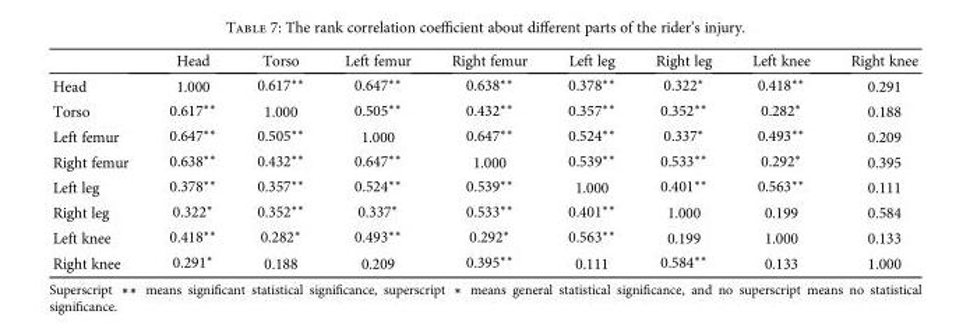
<table><thead><tr><td></td><td>Head</td><td>Torso</td><td>Left femur</td><td>Right femur</td><td>Left leg</td><td>Right leg</td><td>Left knee</td><td>Right knee</td></tr></thead><tbody><tr><td>Head</td><td>1.000</td><td>0.617∗∗</td><td>0.647∗∗</td><td>0.638∗∗</td><td>0.378∗∗</td><td>0.322∗</td><td>0.418∗∗</td><td>0.291</td></tr><tr><td>Torso</td><td>0.617∗∗</td><td>1.000</td><td>0.505∗∗</td><td>0.432∗∗</td><td>0.357∗∗</td><td>0.352∗∗</td><td>0.282∗</td><td>0.188</td></tr><tr><td>Left femur</td><td>0.647∗∗</td><td>0.505∗∗</td><td>1.000</td><td>0.647∗∗</td><td>0.524∗∗</td><td>0.337∗</td><td>0.493∗∗</td><td>0.209</td></tr><tr><td>Right femur</td><td>0.638∗∗</td><td>0.432∗∗</td><td>0.647∗∗</td><td>1.000</td><td>0.539∗∗</td><td>0.533∗∗</td><td>0.292∗</td><td>0.395</td></tr><tr><td>Left leg</td><td>0.378∗∗</td><td>0.357∗∗</td><td>0.524∗∗</td><td>0.539∗∗</td><td>1.000</td><td>0.401∗∗</td><td>0.563∗∗</td><td>0.111</td></tr><tr><td>Right leg</td><td>0.322∗</td><td>0.352∗∗</td><td>0.337∗</td><td>0.533∗∗</td><td>0.401∗∗</td><td>1.000</td><td>0.199</td><td>0.584</td></tr><tr><td>Left knee</td><td>0.418∗∗</td><td>0.282∗</td><td>0.493∗∗</td><td>0.292∗</td><td>0.563∗∗</td><td>0.199</td><td>1.000</td><td>0.133</td></tr><tr><td>Right knee</td><td>0.291∗</td><td>0.188</td><td>0.209</td><td>0.395∗∗</td><td>0.111</td><td>0.584∗∗</td><td>0.133</td><td>1.000</td></tr></tbody></table>